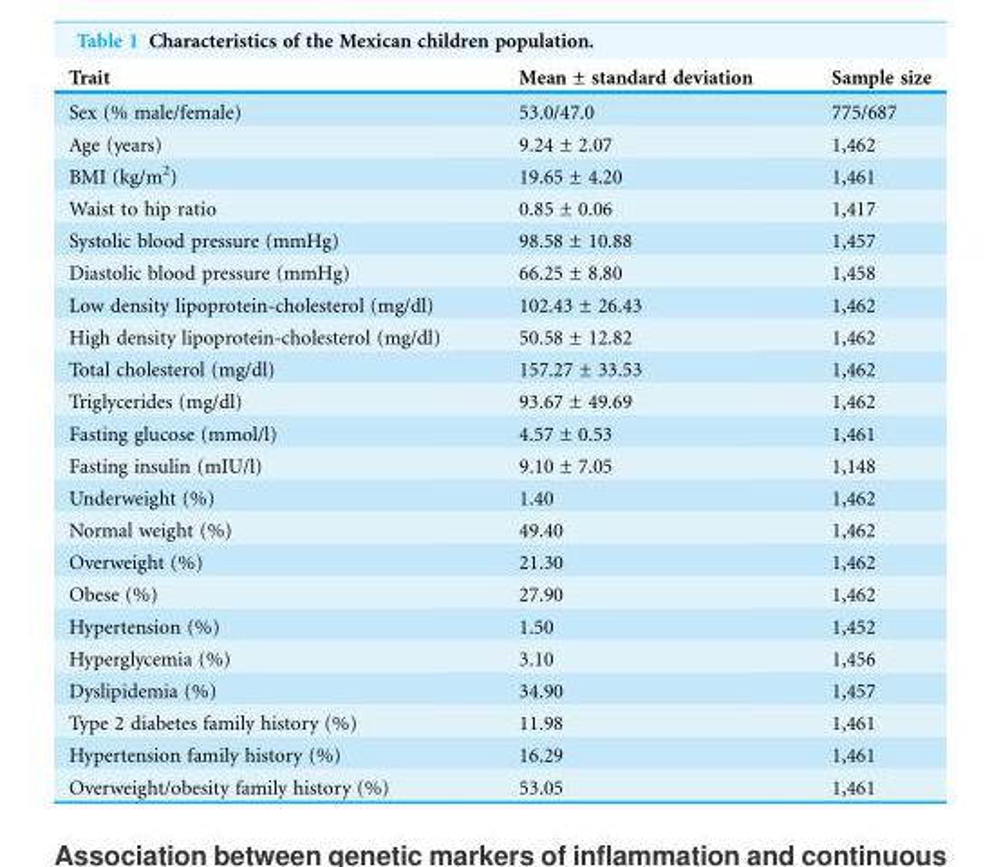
<table><thead><tr><td>Trait</td><td>Mean ± standard deviation</td><td>Sample size</td></tr></thead><tbody><tr><td>Sex (% male/female)</td><td>53.0/47.0</td><td>775/687</td></tr><tr><td>Age (years)</td><td>9.24 ± 2.07</td><td>1,462</td></tr><tr><td>BMI (kg/m<sup>2</sup>)</td><td>19.65 ± 4.20</td><td>1,461</td></tr><tr><td>Waist to hip ratio</td><td>0.85 ± 0.06</td><td>1,417</td></tr><tr><td>Systolic blood pressure (mmHg)</td><td>98.58 ± 10.88</td><td>1,457</td></tr><tr><td>Diastolic blood pressure (mmHg)</td><td>66.25 ± 8.80</td><td>1,458</td></tr><tr><td>Low density lipoprotein-cholesterol (mg/dl)</td><td>102.43 ± 26.43</td><td>1,462</td></tr><tr><td>High density lipoprotein-cholesterol (mg/dl)</td><td>50.58 ± 12.82</td><td>1,462</td></tr><tr><td>Total cholesterol (mg/dl)</td><td>157.27 ± 33.53</td><td>1,462</td></tr><tr><td>Triglycerides (mg/dl)</td><td>93.67 ± 49.69</td><td>1,462</td></tr><tr><td>Fasting glucose (mmol/l)</td><td>4.57 ± 0.53</td><td>1,461</td></tr><tr><td>Fasting insulin (mIU/l)</td><td>9.10 ± 7.05</td><td>1,148</td></tr><tr><td>Underweight (%)</td><td>1.40</td><td>1,462</td></tr><tr><td>Normal weight (%)</td><td>49.40</td><td>1,462</td></tr><tr><td>Overweight (%)</td><td>21.30</td><td>1,462</td></tr><tr><td>Obese (%)</td><td>27.90</td><td>1,462</td></tr><tr><td>Hypertension (%)</td><td>1.50</td><td>1,452</td></tr><tr><td>Hyperglycemia (%)</td><td>3.10</td><td>1,456</td></tr><tr><td>Dyslipidemia (%)</td><td>34.90</td><td>1,457</td></tr><tr><td>Type 2 diabetes family history (%)</td><td>11.98</td><td>1,461</td></tr><tr><td>Hypertension family history (%)</td><td>16.29</td><td>1,461</td></tr><tr><td>Overweight/obesity family history (%)</td><td>53.05</td><td>1,461</td></tr></tbody></table>